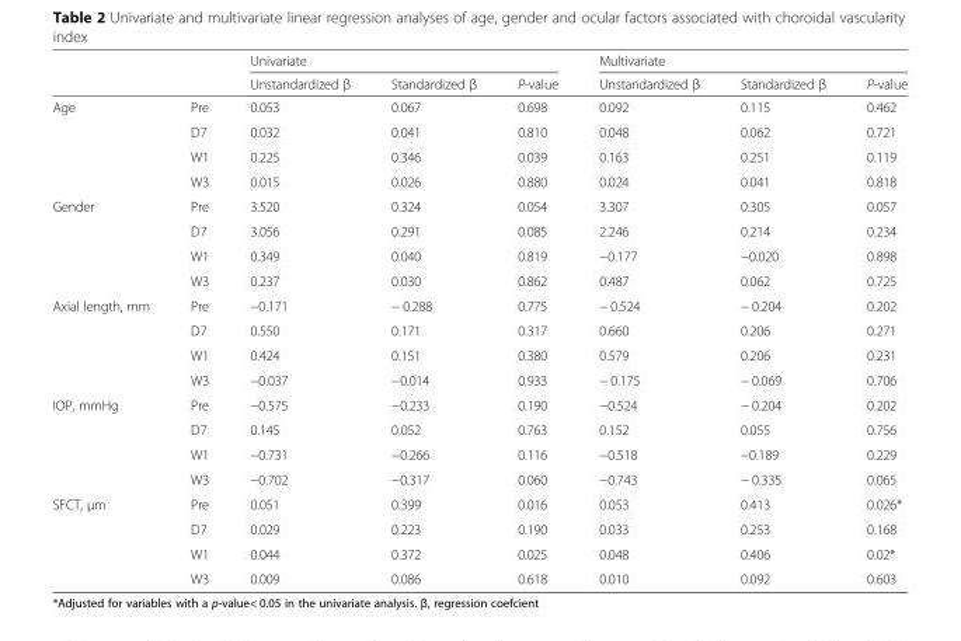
<table><thead><tr><td rowspan="2"></td><td rowspan="2"></td><td colspan="3">Univariate</td><td colspan="3">Multivariate</td></tr><tr><td>Unstandardized β</td><td>Standardized β</td><td>P-value</td><td>Unstandardized β</td><td>Standardized β</td><td>P-value</td></tr></thead><tbody><tr><td rowspan="4">Age</td><td>Pre</td><td>0.053</td><td>0.067</td><td>0.698</td><td>0.092</td><td>0.115</td><td>0.462</td></tr><tr><td>D7</td><td>0.032</td><td>0.041</td><td>0.810</td><td>0.048</td><td>0.062</td><td>0.721</td></tr><tr><td>W1</td><td>0.225</td><td>0.346</td><td>0.039</td><td>0.163</td><td>0.251</td><td>0.119</td></tr><tr><td>W3</td><td>0.015</td><td>0.026</td><td>0.880</td><td>0.024</td><td>0.041</td><td>0.818</td></tr><tr><td rowspan="4">Gender</td><td>Pre</td><td>3.520</td><td>0.324</td><td>0.054</td><td>3.307</td><td>0.305</td><td>0.057</td></tr><tr><td>D7</td><td>3.056</td><td>0.291</td><td>0.085</td><td>2.246</td><td>0.214</td><td>0.234</td></tr><tr><td>W1</td><td>0.349</td><td>0.040</td><td>0.819</td><td>−0.177</td><td>−0.020</td><td>0.898</td></tr><tr><td>W3</td><td>0.237</td><td>0.030</td><td>0.862</td><td>0.487</td><td>0.062</td><td>0.725</td></tr><tr><td rowspan="4">Axial length, mm</td><td>Pre</td><td>−0.171</td><td>− 0.288</td><td>0.775</td><td>− 0.524</td><td>− 0.204</td><td>0.202</td></tr><tr><td>D7</td><td>0.550</td><td>0.171</td><td>0.317</td><td>0.660</td><td>0.206</td><td>0.271</td></tr><tr><td>W1</td><td>0.424</td><td>0.151</td><td>0.380</td><td>0.579</td><td>0.206</td><td>0.231</td></tr><tr><td>W3</td><td>−0.037</td><td>−0.014</td><td>0.933</td><td>− 0.175</td><td>− 0.069</td><td>0.706</td></tr><tr><td rowspan="4">IOP, mmHg</td><td>Pre</td><td>−0.575</td><td>−0.233</td><td>0.190</td><td>−0.524</td><td>− 0.204</td><td>0.202</td></tr><tr><td>D7</td><td>0.145</td><td>0.052</td><td>0.763</td><td>0.152</td><td>0.055</td><td>0.756</td></tr><tr><td>W1</td><td>−0.731</td><td>−0.266</td><td>0.116</td><td>−0.518</td><td>−0.189</td><td>0.229</td></tr><tr><td>W3</td><td>−0.702</td><td>−0.317</td><td>0.060</td><td>−0.743</td><td>− 0.335</td><td>0.065</td></tr><tr><td rowspan="4">SFCT, μm</td><td>Pre</td><td>0.051</td><td>0.399</td><td>0.016</td><td>0.053</td><td>0.413</td><td>0.026*</td></tr><tr><td>D7</td><td>0.029</td><td>0.223</td><td>0.190</td><td>0.033</td><td>0.253</td><td>0.168</td></tr><tr><td>W1</td><td>0.044</td><td>0.372</td><td>0.025</td><td>0.048</td><td>0.406</td><td>0.02*</td></tr><tr><td>W3</td><td>0.009</td><td>0.086</td><td>0.618</td><td>0.010</td><td>0.092</td><td>0.603</td></tr></tbody></table>